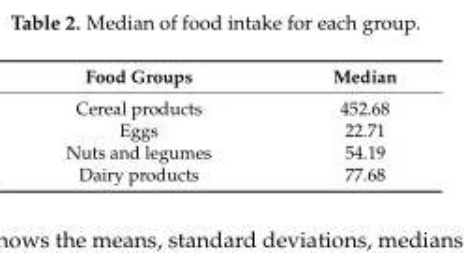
<table><thead><tr><td>Food Groups</td><td>Median</td></tr></thead><tbody><tr><td>Cereal products</td><td>452.68</td></tr><tr><td>Eggs</td><td>22.71</td></tr><tr><td>Nuts and legumes</td><td>54.19</td></tr><tr><td>Dairy products</td><td>77.68</td></tr></tbody></table>